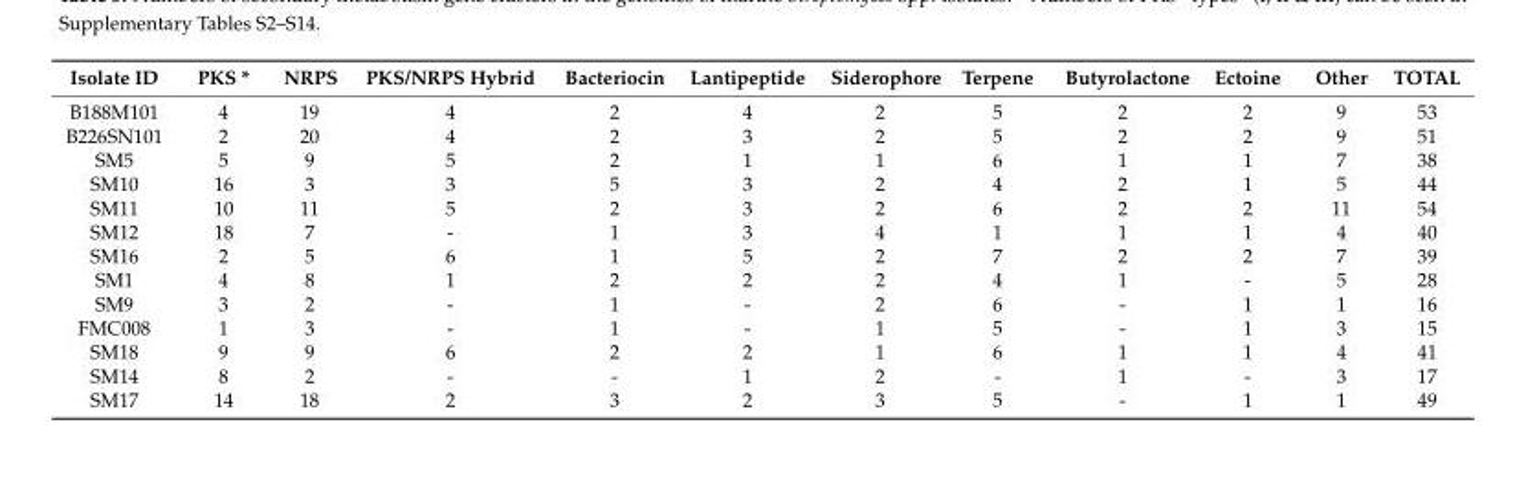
<table><thead><tr><td>Isolate ID</td><td>PKS *</td><td>NRPS</td><td>PKS/NRPS Hybrid</td><td>Bacteriocin</td><td>Lantipeptide</td><td>Siderophore</td><td>Terpene</td><td>Butyrolactone</td><td>Ectoine</td><td>Other</td><td>TOTAL</td></tr></thead><tbody><tr><td>B188M101</td><td>4</td><td>19</td><td>4</td><td>2</td><td>4</td><td>2</td><td>5</td><td>2</td><td>2</td><td>9</td><td>53</td></tr><tr><td>B226SN101</td><td>2</td><td>20</td><td>4</td><td>2</td><td>3</td><td>2</td><td>5</td><td>2</td><td>2</td><td>9</td><td>51</td></tr><tr><td>SM5</td><td>5</td><td>9</td><td>5</td><td>2</td><td>1</td><td>1</td><td>6</td><td>1</td><td>1</td><td>7</td><td>38</td></tr><tr><td>SM10</td><td>16</td><td>3</td><td>3</td><td>5</td><td>3</td><td>2</td><td>4</td><td>2</td><td>1</td><td>5</td><td>44</td></tr><tr><td>SM11</td><td>10</td><td>11</td><td>5</td><td>2</td><td>3</td><td>2</td><td>6</td><td>2</td><td>2</td><td>11</td><td>54</td></tr><tr><td>SM12</td><td>18</td><td>7</td><td>-</td><td>1</td><td>3</td><td>4</td><td>1</td><td>1</td><td>1</td><td>4</td><td>40</td></tr><tr><td>SM16</td><td>2</td><td>5</td><td>6</td><td>1</td><td>5</td><td>2</td><td>7</td><td>2</td><td>2</td><td>7</td><td>39</td></tr><tr><td>SM1</td><td>4</td><td>8</td><td>1</td><td>2</td><td>2</td><td>2</td><td>4</td><td>1</td><td>-</td><td>5</td><td>28</td></tr><tr><td>SM9</td><td>3</td><td>2</td><td>-</td><td>1</td><td>-</td><td>2</td><td>6</td><td>-</td><td>1</td><td>1</td><td>16</td></tr><tr><td>FMC008</td><td>1</td><td>3</td><td>-</td><td>1</td><td>-</td><td>1</td><td>5</td><td>-</td><td>1</td><td>3</td><td>15</td></tr><tr><td>SM18</td><td>9</td><td>9</td><td>6</td><td>2</td><td>2</td><td>1</td><td>6</td><td>1</td><td>1</td><td>4</td><td>41</td></tr><tr><td>SM14</td><td>8</td><td>2</td><td>-</td><td>-</td><td>1</td><td>2</td><td>-</td><td>1</td><td>-</td><td>3</td><td>17</td></tr><tr><td>SM17</td><td>14</td><td>18</td><td>2</td><td>3</td><td>2</td><td>3</td><td>5</td><td>-</td><td>1</td><td>1</td><td>49</td></tr></tbody></table>